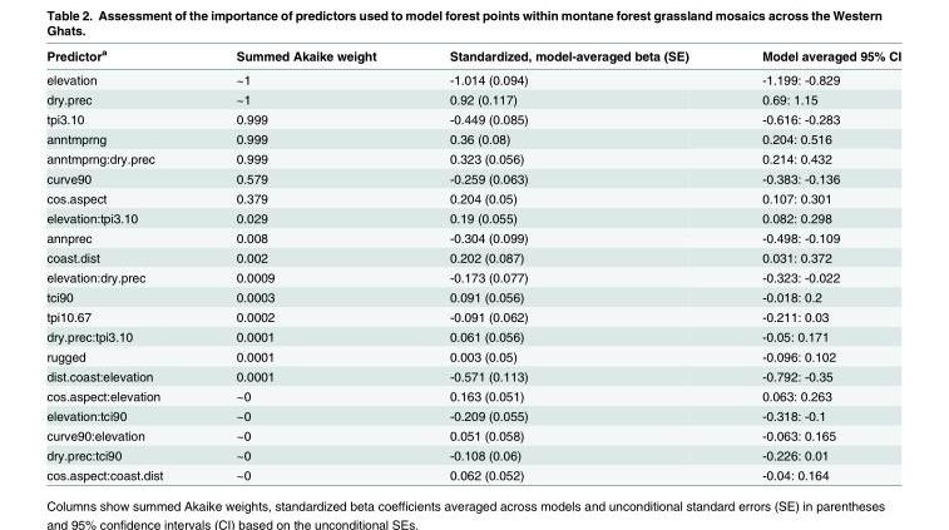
<table><thead><tr><td>Predictor<sup>a</sup></td><td>Summed Akaike weight</td><td>Standardized, model-averaged beta (SE)</td><td>Model averaged 95% CI</td></tr></thead><tbody><tr><td>elevation</td><td>~1</td><td>-1.014 (0.094)</td><td>-1.199: -0.829</td></tr><tr><td>dry.prec</td><td>~1</td><td>0.92 (0.117)</td><td>0.69: 1.15</td></tr><tr><td>tpi3.10</td><td>0.999</td><td>-0.449 (0.085)</td><td>-0.616: -0.283</td></tr><tr><td>anntmprng</td><td>0.999</td><td>0.36 (0.08)</td><td>0.204: 0.516</td></tr><tr><td>anntmprng:dry.prec</td><td>0.999</td><td>0.323 (0.056)</td><td>0.214: 0.432</td></tr><tr><td>curve90</td><td>0.579</td><td>-0.259 (0.063)</td><td>-0.383: -0.136</td></tr><tr><td>cos.aspect</td><td>0.379</td><td>0.204 (0.05)</td><td>0.107: 0.301</td></tr><tr><td>elevation:tpi3.10</td><td>0.029</td><td>0.19 (0.055)</td><td>0.082: 0.298</td></tr><tr><td>annprec</td><td>0.008</td><td>-0.304 (0.099)</td><td>-0.498: -0.109</td></tr><tr><td>coast.dist</td><td>0.002</td><td>0.202 (0.087)</td><td>0.031: 0.372</td></tr><tr><td>elevation:dry.prec</td><td>0.0009</td><td>-0.173 (0.077)</td><td>-0.323: -0.022</td></tr><tr><td>tci90</td><td>0.0003</td><td>0.091 (0.056)</td><td>-0.018: 0.2</td></tr><tr><td>tpi10.67</td><td>0.0002</td><td>-0.091 (0.062)</td><td>-0.211: 0.03</td></tr><tr><td>dry.prec:tpi3.10</td><td>0.0001</td><td>0.061 (0.056)</td><td>-0.05: 0.171</td></tr><tr><td>rugged</td><td>0.0001</td><td>0.003 (0.05)</td><td>-0.096: 0.102</td></tr><tr><td>dist.coast:elevation</td><td>0.0001</td><td>-0.571 (0.113)</td><td>-0.792: -0.35</td></tr><tr><td>cos.aspect:elevation</td><td>~0</td><td>0.163 (0.051)</td><td>0.063: 0.263</td></tr><tr><td>elevation:tci90</td><td>~0</td><td>-0.209 (0.055)</td><td>-0.318: -0.1</td></tr><tr><td>curve90:elevation</td><td>~0</td><td>0.051 (0.058)</td><td>-0.063: 0.165</td></tr><tr><td>dry.prec:tci90</td><td>~0</td><td>-0.108 (0.06)</td><td>-0.226: 0.01</td></tr><tr><td>cos.aspect:coast.dist</td><td>~0</td><td>0.062 (0.052)</td><td>-0.04: 0.164</td></tr></tbody></table>